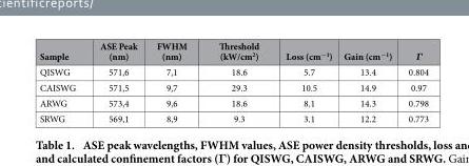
<table><thead><tr><td>Sample</td><td>ASE Peak (nm)</td><td>FWHM (nm)</td><td>Threshold (kW/cm<sup>2</sup>)</td><td>Loss (cm<sup>−1</sup>)</td><td>Gain (cm<sup>−1</sup>)</td><td>Γ</td></tr></thead><tbody><tr><td>QISWG</td><td>571,6</td><td>7,1</td><td>18.6</td><td>5.7</td><td>13.4</td><td>0.804</td></tr><tr><td>CAISWG</td><td>571,5</td><td>9,7</td><td>29.3</td><td>10.5</td><td>14.9</td><td>0.97</td></tr><tr><td>ARWG</td><td>573,4</td><td>9,6</td><td>18.6</td><td>8.1</td><td>14.3</td><td>0.798</td></tr><tr><td>SRWG</td><td>569,1</td><td>8,9</td><td>9.3</td><td>3.1</td><td>12.2</td><td>0.773</td></tr></tbody></table>